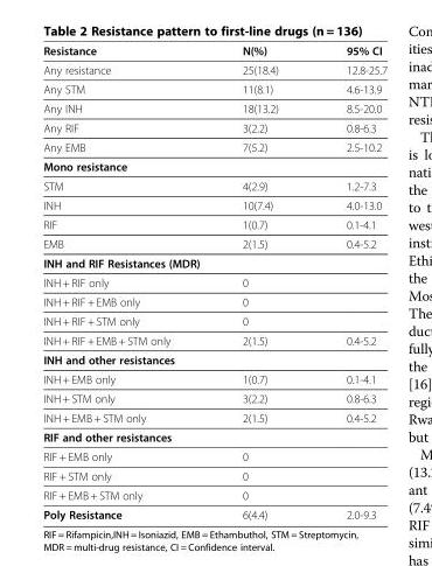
<table><thead><tr><td>Resistance</td><td>N(%)</td><td>95% CI</td></tr></thead><tbody><tr><td>Any resistance</td><td>25(18.4)</td><td>12.8-25.7</td></tr><tr><td>Any STM</td><td>11(8.1)</td><td>4.6-13.9</td></tr><tr><td>Any INH</td><td>18(13.2)</td><td>8.5-20.0</td></tr><tr><td>Any RIF</td><td>3(2.2)</td><td>0.8-6.3</td></tr><tr><td>Any EMB</td><td>7(5.2)</td><td>2.5-10.2</td></tr><tr><td colspan="3">Mono resistance</td></tr><tr><td>STM</td><td>4(2.9)</td><td>1.2-7.3</td></tr><tr><td>INH</td><td>10(7.4)</td><td>4.0-13.0</td></tr><tr><td>RIF</td><td>1(0.7)</td><td>0.1-4.1</td></tr><tr><td>EMB</td><td>2(1.5)</td><td>0.4-5.2</td></tr><tr><td colspan="3">INH and RIF Resistances (MDR)</td></tr><tr><td>INH + RIF only</td><td>0</td><td></td></tr><tr><td>INH + RIF + EMB only</td><td>0</td><td></td></tr><tr><td>INH + RIF + STM only</td><td>0</td><td></td></tr><tr><td>INH + RIF + EMB + STM only</td><td>2(1.5)</td><td>0.4-5.2</td></tr><tr><td colspan="3">INH and other resistances</td></tr><tr><td>INH + EMB only</td><td>1(0.7)</td><td>0.1-4.1</td></tr><tr><td>INH + STM only</td><td>3(2.2)</td><td>0.8-6.3</td></tr><tr><td>INH + EMB + STM only</td><td>2(1.5)</td><td>0.4-5.2</td></tr><tr><td colspan="3">RIF and other resistances</td></tr><tr><td>RIF + EMB only</td><td>0</td><td></td></tr><tr><td>RIF + STM only</td><td>0</td><td></td></tr><tr><td>RIF + EMB + STM only</td><td>0</td><td></td></tr><tr><td>Poly Resistance</td><td>6(4.4)</td><td>2.0-9.3</td></tr></tbody></table>